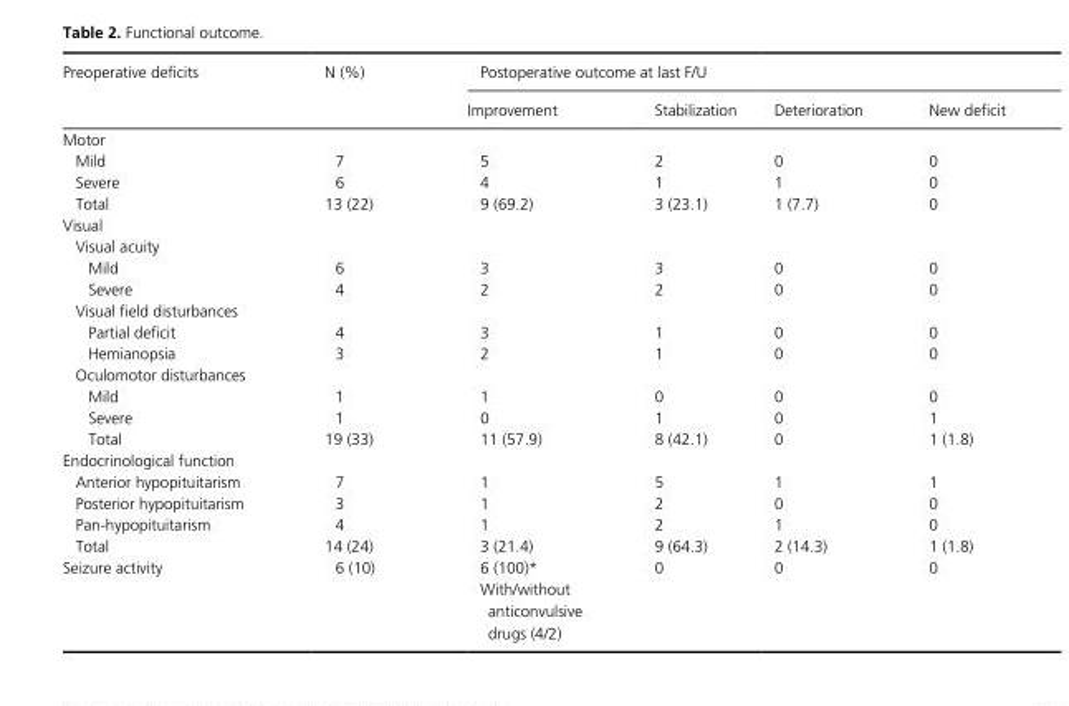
<table><thead><tr><td rowspan="2">Preoperative deficits</td><td rowspan="2">N (%)</td><td colspan="4">Postoperative outcome at last F/U</td></tr><tr><td>Improvement</td><td>Stabilization</td><td>Deterioration</td><td>New deficit</td></tr></thead><tbody><tr><td colspan="6">Motor</td></tr><tr><td>Mild</td><td>7</td><td>5</td><td>2</td><td>0</td><td>0</td></tr><tr><td>Severe</td><td>6</td><td>4</td><td>1</td><td>1</td><td>0</td></tr><tr><td>Total</td><td>13 (22)</td><td>9 (69.2)</td><td>3 (23.1)</td><td>1 (7.7)</td><td>0</td></tr><tr><td colspan="6">Visual</td></tr><tr><td colspan="6">Visual acuity</td></tr><tr><td>Mild</td><td>6</td><td>3</td><td>3</td><td>0</td><td>0</td></tr><tr><td>Severe</td><td>4</td><td>2</td><td>2</td><td>0</td><td>0</td></tr><tr><td colspan="6">Visual field disturbances</td></tr><tr><td>Partial deficit</td><td>4</td><td>3</td><td>1</td><td>0</td><td>0</td></tr><tr><td>Hemianopsia</td><td>3</td><td>2</td><td>1</td><td>0</td><td>0</td></tr><tr><td colspan="6">Oculomotor disturbances</td></tr><tr><td>Mild</td><td>1</td><td>1</td><td>0</td><td>0</td><td>0</td></tr><tr><td>Severe</td><td>1</td><td>0</td><td>1</td><td>0</td><td>1</td></tr><tr><td>Total</td><td>19 (33)</td><td>11 (57.9)</td><td>8 (42.1)</td><td>0</td><td>1 (1.8)</td></tr><tr><td colspan="6">Endocrinological function</td></tr><tr><td>Anterior hypopituitarism</td><td>7</td><td>1</td><td>5</td><td>1</td><td>1</td></tr><tr><td>Posterior hypopituitarism</td><td>3</td><td>1</td><td>2</td><td>0</td><td>0</td></tr><tr><td>Pan- hypopituitarism</td><td>4</td><td>1</td><td>2</td><td>1</td><td>0</td></tr><tr><td>Total</td><td>14 (24)</td><td>3 (21.4)</td><td>9 (64.3)</td><td>2 (14.3)</td><td>1 (1.8)</td></tr><tr><td>Seizure activity</td><td>6 (10)</td><td>6 (100)*</td><td>0</td><td>0</td><td>0</td></tr><tr><td colspan="2"></td><td>With/without anticonvulsive drugs (4/2)</td><td colspan="3"></td></tr></tbody></table>